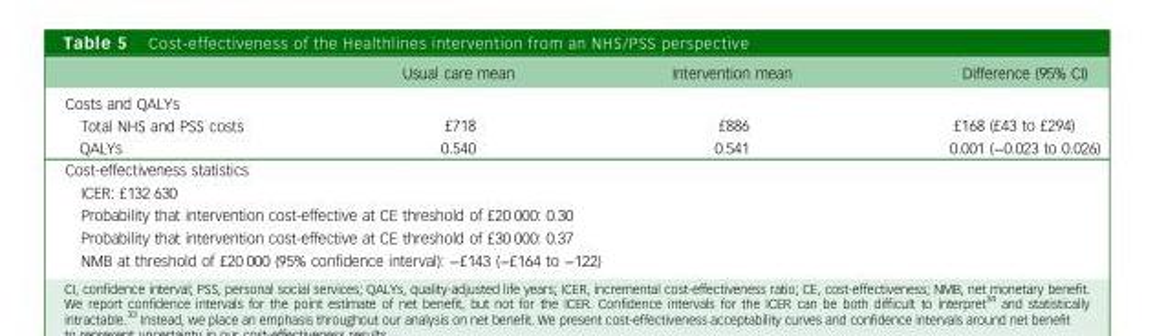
<table><thead><tr><td></td><td>Usual care mean</td><td>Intervention mean</td><td>Difference (95% CI)</td></tr></thead><tbody><tr><td colspan="4">Costs and QALYs</td></tr><tr><td>Total NHS and PSS costs</td><td>£718</td><td>£886</td><td>£168 (£43 to £294)</td></tr><tr><td>QALYs</td><td>0.540</td><td>0.541</td><td>0.001 (−0.023 to 0.026)</td></tr><tr><td colspan="4">Cost-effectiveness statistics</td></tr><tr><td colspan="4">ICER: £132 630</td></tr><tr><td colspan="4">Probability that intervention cost-effective at CE threshold of £20 000: 0.30</td></tr><tr><td colspan="4">Probability that intervention cost-effective at CE threshold of £30 000: 0.37</td></tr><tr><td colspan="4">NMB at threshold of £20 000 (95% confidence interval): −£143 (−£164 to −122)</td></tr></tbody></table>